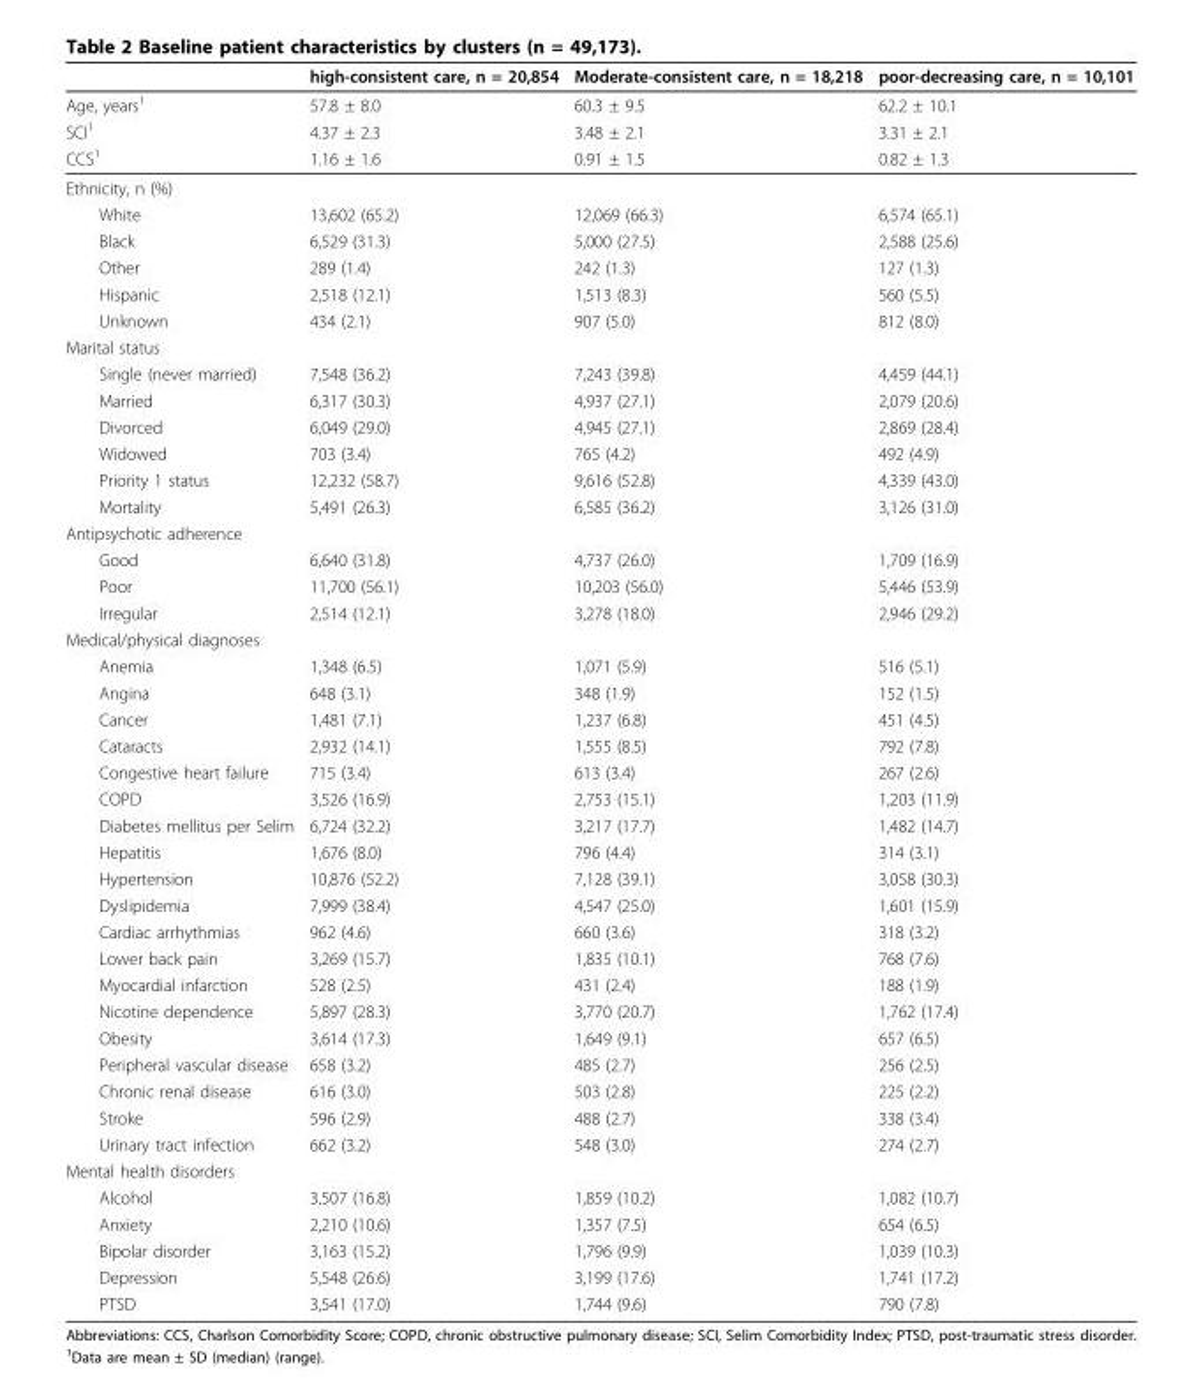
<table><thead><tr><td></td><td>high-consistent care, n = 20,854</td><td>Moderate-consistent care, n = 18,218</td><td>poor-decreasing care, n = 10,101</td></tr></thead><tbody><tr><td>Age, years<sup>1</sup></td><td>57.8 ± 8.0</td><td>60.3 ± 9.5</td><td>62.2 ± 10.1</td></tr><tr><td>SCI<sup>1</sup></td><td>4.37 ± 2.3</td><td>3.48 ± 2.1</td><td>3.31 ± 2.1</td></tr><tr><td>CCS<sup>1</sup></td><td>1.16 ± 1.6</td><td>0.91 ± 1.5</td><td>0.82 ± 1.3</td></tr><tr><td colspan="4">Ethnicity, n (%)</td></tr><tr><td>White</td><td>13,602 (65.2)</td><td>12,069 (66.3)</td><td>6,574 (65.1)</td></tr><tr><td>Black</td><td>6,529 (31.3)</td><td>5,000 (27.5)</td><td>2,588 (25.6)</td></tr><tr><td>Other</td><td>289 (1.4)</td><td>242 (1.3)</td><td>127 (1.3)</td></tr><tr><td>Hispanic</td><td>2,518 (12.1)</td><td>1,513 (8.3)</td><td>560 (5.5)</td></tr><tr><td>Unknown</td><td>434 (2.1)</td><td>907 (5.0)</td><td>812 (8.0)</td></tr><tr><td colspan="4">Marital status</td></tr><tr><td>Single (never married)</td><td>7,548 (36.2)</td><td>7,243 (39.8)</td><td>4,459 (44.1)</td></tr><tr><td>Married</td><td>6,317 (30.3)</td><td>4,937 (27.1)</td><td>2,079 (20.6)</td></tr><tr><td>Divorced</td><td>6,049 (29.0)</td><td>4,945 (27.1)</td><td>2,869 (28.4)</td></tr><tr><td>Widowed</td><td>703 (3.4)</td><td>765 (4.2)</td><td>492 (4.9)</td></tr><tr><td>Priority 1 status</td><td>12,232 (58.7)</td><td>9,616 (52.8)</td><td>4,339 (43.0)</td></tr><tr><td>Mortality</td><td>5,491 (26.3)</td><td>6,585 (36.2)</td><td>3,126 (31.0)</td></tr><tr><td colspan="4">Antipsychotic adherence</td></tr><tr><td>Good</td><td>6,640 (31.8)</td><td>4,737 (26.0)</td><td>1,709 (16.9)</td></tr><tr><td>Poor</td><td>11,700 (56.1)</td><td>10,203 (56.0)</td><td>5,446 (53.9)</td></tr><tr><td>Irregular</td><td>2,514 (12.1)</td><td>3,278 (18.0)</td><td>2,946 (29.2)</td></tr><tr><td colspan="4">Medical/physical diagnoses</td></tr><tr><td>Anemia</td><td>1,348 (6.5)</td><td>1,071 (5.9)</td><td>516 (5.1)</td></tr><tr><td>Angina</td><td>648 (3.1)</td><td>348 (1.9)</td><td>152 (1.5)</td></tr><tr><td>Cancer</td><td>1,481 (7.1)</td><td>1,237 (6.8)</td><td>451 (4.5)</td></tr><tr><td>Cataracts</td><td>2,932 (14.1)</td><td>1,555 (8.5)</td><td>792 (7.8)</td></tr><tr><td>Congestive heart failure</td><td>715 (3.4)</td><td>613 (3.4)</td><td>267 (2.6)</td></tr><tr><td>COPD</td><td>3,526 (16.9)</td><td>2,753 (15.1)</td><td>1,203 (11.9)</td></tr><tr><td>Diabetes mellitus per Selim</td><td>6,724 (32.2)</td><td>3,217 (17.7)</td><td>1,482 (14.7)</td></tr><tr><td>Hepatitis</td><td>1,676 (8.0)</td><td>796 (4.4)</td><td>314 (3.1)</td></tr><tr><td>Hypertension</td><td>10,876 (52.2)</td><td>7,128 (39.1)</td><td>3,058 (30.3)</td></tr><tr><td>Dyslipidemia</td><td>7,999 (38.4)</td><td>4,547 (25.0)</td><td>1,601 (15.9)</td></tr><tr><td>Cardiac arrhythmias</td><td>962 (4.6)</td><td>660 (3.6)</td><td>318 (3.2)</td></tr><tr><td>Lower back pain</td><td>3,269 (15.7)</td><td>1,835 (10.1)</td><td>768 (7.6)</td></tr><tr><td>Myocardial infarction</td><td>528 (2.5)</td><td>431 (2.4)</td><td>188 (1.9)</td></tr><tr><td>Nicotine dependence</td><td>5,897 (28.3)</td><td>3,770 (20.7)</td><td>1,762 (17.4)</td></tr><tr><td>Obesity</td><td>3,614 (17.3)</td><td>1,649 (9.1)</td><td>657 (6.5)</td></tr><tr><td>Peripheral vascular disease</td><td>658 (3.2)</td><td>485 (2.7)</td><td>256 (2.5)</td></tr><tr><td>Chronic renal disease</td><td>616 (3.0)</td><td>503 (2.8)</td><td>225 (2.2)</td></tr><tr><td>Stroke</td><td>596 (2.9)</td><td>488 (2.7)</td><td>338 (3.4)</td></tr><tr><td>Urinary tract infection</td><td>662 (3.2)</td><td>548 (3.0)</td><td>274 (2.7)</td></tr><tr><td colspan="4">Mental health disorders</td></tr><tr><td>Alcohol</td><td>3,507 (16.8)</td><td>1,859 (10.2)</td><td>1,082 (10.7)</td></tr><tr><td>Anxiety</td><td>2,210 (10.6)</td><td>1,357 (7.5)</td><td>654 (6.5)</td></tr><tr><td>Bipolar disorder</td><td>3,163 (15.2)</td><td>1,796 (9.9)</td><td>1,039 (10.3)</td></tr><tr><td>Depression</td><td>5,548 (26.6)</td><td>3,199 (17.6)</td><td>1,741 (17.2)</td></tr><tr><td>PTSD</td><td>3,541 (17.0)</td><td>1,744 (9.6)</td><td>790 (7.8)</td></tr></tbody></table>